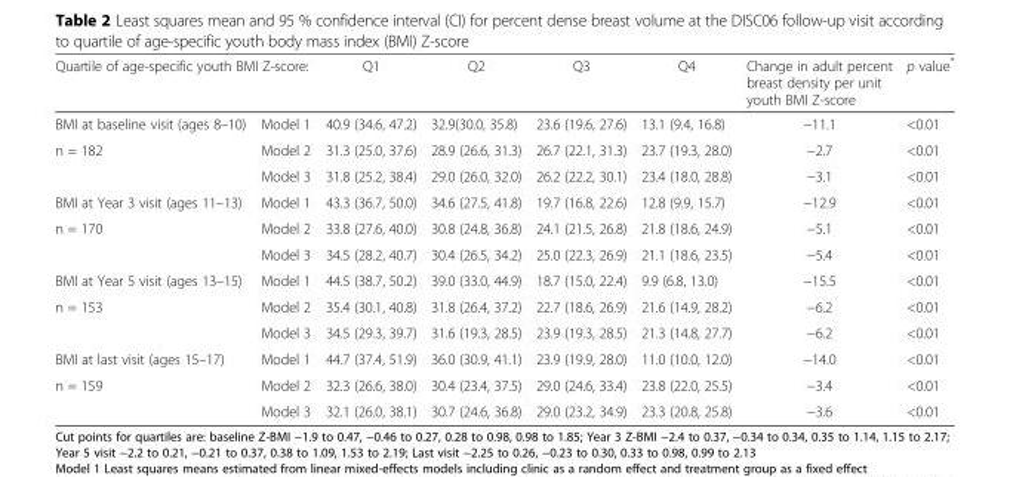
<table><thead><tr><td colspan="2">Quartile of age-specific youth BMI Z-score:</td><td rowspan="2">Q1 40.9 (34.6, 47.2)</td><td rowspan="2">Q2 32.9(30.0, 35.8)</td><td rowspan="2">Q3 23.6 (19.6, 27.6)</td><td rowspan="2">Q4 13.1 (9.4, 16.8)</td><td rowspan="2">Change in adult percent breast density per unit youth BMI Z-score −11.1</td><td rowspan="2">p value* &lt;0.01</td></tr><tr><td>BMI at baseline visit (ages 8–10)</td><td>Model 1</td></tr></thead><tbody><tr><td rowspan="2">n = 182</td><td>Model 2</td><td>31.3 (25.0, 37.6)</td><td>28.9 (26.6, 31.3)</td><td>26.7 (22.1, 31.3)</td><td>23.7 (19.3, 28.0)</td><td>−2.7</td><td>&lt;0.01</td></tr><tr><td>Model 3</td><td>31.8 (25.2, 38.4)</td><td>29.0 (26.0, 32.0)</td><td>26.2 (22.2, 30.1)</td><td>23.4 (18.0, 28.8)</td><td>−3.1</td><td>&lt;0.01</td></tr><tr><td>BMI at Year 3 visit (ages 11–13)</td><td>Model 1</td><td>43.3 (36.7, 50.0)</td><td>34.6 (27.5, 41.8)</td><td>19.7 (16.8, 22.6)</td><td>12.8 (9.9, 15.7)</td><td>−12.9</td><td>&lt;0.01</td></tr><tr><td rowspan="2">n = 170</td><td>Model 2</td><td>33.8 (27.6, 40.0)</td><td>30.8 (24.8, 36.8)</td><td>24.1 (21.5, 26.8)</td><td>21.8 (18.6, 24.9)</td><td>−5.1</td><td>&lt;0.01</td></tr><tr><td>Model 3</td><td>34.5 (28.2, 40.7)</td><td>30.4 (26.5, 34.2)</td><td>25.0 (22.3, 26.9)</td><td>21.1 (18.6, 23.5)</td><td>−5.4</td><td>&lt;0.01</td></tr><tr><td>BMI at Year 5 visit (ages 13–15)</td><td>Model 1</td><td>44.5 (38.7, 50.2)</td><td>39.0 (33.0, 44.9)</td><td>18.7 (15.0, 22.4)</td><td>9.9 (6.8, 13.0)</td><td>−15.5</td><td>&lt;0.01</td></tr><tr><td rowspan="2">n = 153</td><td>Model 2</td><td>35.4 (30.1, 40.8)</td><td>31.8 (26.4, 37.2)</td><td>22.7 (18.6, 26.9)</td><td>21.6 (14.9, 28.2)</td><td>−6.2</td><td>&lt;0.01</td></tr><tr><td>Model 3</td><td>34.5 (29.3, 39.7)</td><td>31.6 (19.3, 28.5)</td><td>23.9 (19.3, 28.5)</td><td>21.3 (14.8, 27.7)</td><td>−6.2</td><td>&lt;0.01</td></tr><tr><td>BMI at last visit (ages 15–17)</td><td>Model 1</td><td>44.7 (37.4, 51.9)</td><td>36.0 (30.9, 41.1)</td><td>23.9 (19.9, 28.0)</td><td>11.0 (10.0, 12.0)</td><td>−14.0</td><td>&lt;0.01</td></tr><tr><td rowspan="2">n = 159</td><td>Model 2</td><td>32.3 (26.6, 38.0)</td><td>30.4 (23.4, 37.5)</td><td>29.0 (24.6, 33.4)</td><td>23.8 (22.0, 25.5)</td><td>−3.4</td><td>&lt;0.01</td></tr><tr><td>Model 3</td><td>32.1 (26.0, 38.1)</td><td>30.7 (24.6, 36.8)</td><td>29.0 (23.2, 34.9)</td><td>23.3 (20.8, 25.8)</td><td>−3.6</td><td>&lt;0.01</td></tr></tbody></table>